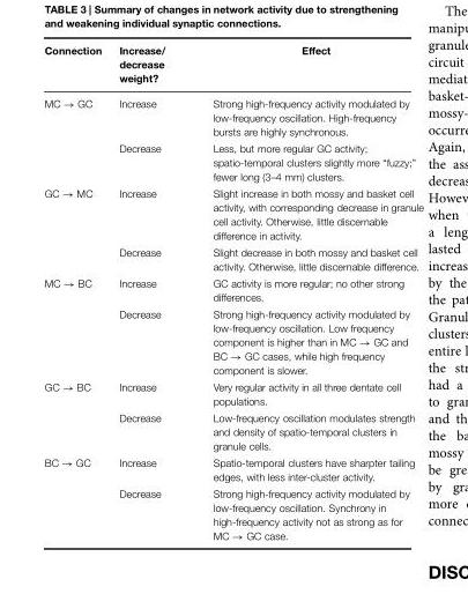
<table><thead><tr><td>Connection</td><td>Increase/ decrease weight?</td><td>Effect</td></tr></thead><tbody><tr><td rowspan="2">MC → GC</td><td>Increase</td><td>Strong high-frequency activity modulated by low-frequency oscillation. High-frequency bursts are highly synchronous.</td></tr><tr><td>Decrease</td><td>Less, but more regular GC activity; spatio-temporal clusters slightly more “fuzzy;” fewer long (3–4 mm) clusters.</td></tr><tr><td rowspan="2">GC → MC</td><td>Increase</td><td>Slight increase in both mossy and basket cell activity, with corresponding decrease in granule cell activity. Otherwise, little discernable difference in activity.</td></tr><tr><td>Decrease</td><td>Slight decrease in both mossy and basket cell activity. Otherwise, little discernable difference.</td></tr><tr><td rowspan="2">MC → BC</td><td>Increase</td><td>GC activity is more regular; no other strong differences.</td></tr><tr><td>Decrease</td><td>Strong high-frequency activity modulated by low-frequency oscillation. Low frequency component is higher than in MC → GC and BC → GC cases, while high frequency component is slower.</td></tr><tr><td rowspan="2">GC → BC</td><td>Increase</td><td>Very regular activity in all three dentate cell populations.</td></tr><tr><td>Decrease</td><td>Low-frequency oscillation modulates strength and density of spatio-temporal clusters in granule cells.</td></tr><tr><td rowspan="2">BC → GC</td><td>Increase</td><td>Spatio-temporal clusters have sharpter tailing edges, with less inter-cluster activity.</td></tr><tr><td>Decrease</td><td>Strong high-frequency activity modulated by low-frequency oscillation. Synchrony in high-frequency activity not as strong as for MC → GC case.</td></tr></tbody></table>